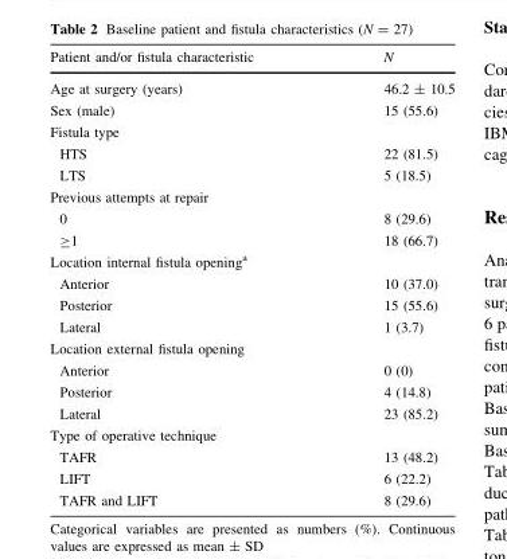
<table><thead><tr><td>Patient and/or fistula characteristic</td><td>N</td></tr></thead><tbody><tr><td>Age at surgery (years)</td><td>46.2 ± 10.5</td></tr><tr><td>Sex (male)</td><td>15 (55.6)</td></tr><tr><td colspan="2">Fistula type</td></tr><tr><td>HTS</td><td>22 (81.5)</td></tr><tr><td>LTS</td><td>5 (18.5)</td></tr><tr><td colspan="2">Previous attempts at repair</td></tr><tr><td>0</td><td>8 (29.6)</td></tr><tr><td>≥1</td><td>18 (66.7)</td></tr><tr><td colspan="2">Location internal fistula opening<sup>a</sup></td></tr><tr><td>Anterior</td><td>10 (37.0)</td></tr><tr><td>Posterior</td><td>15 (55.6)</td></tr><tr><td>Lateral</td><td>1 (3.7)</td></tr><tr><td colspan="2">Location external fistula opening</td></tr><tr><td>Anterior</td><td>0 (0)</td></tr><tr><td>Posterior</td><td>4 (14.8)</td></tr><tr><td>Lateral</td><td>23 (85.2)</td></tr><tr><td colspan="2">Type of operative technique</td></tr><tr><td>TAFR</td><td>13 (48.2)</td></tr><tr><td>LIFT</td><td>6 (22.2)</td></tr><tr><td>TAFR and LIFT</td><td>8 (29.6)</td></tr></tbody></table>